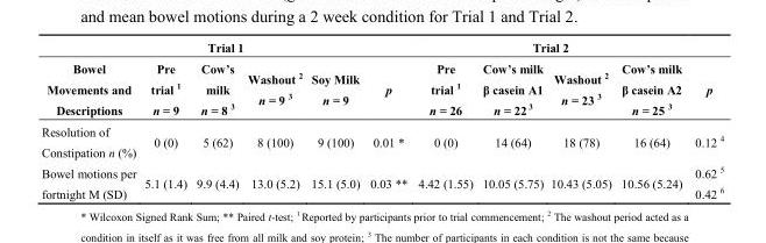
<table><thead><tr><td colspan="6">Trial 1</td><td colspan="4">Trial 2</td><td rowspan="2">p</td></tr><tr><td>Bowel Movements and Descriptions</td><td>Pre trial <sup>1</sup> n = 9</td><td>Cow’s milk n = 8 <sup>3</sup></td><td>Washout <sup>2</sup> n = 9 <sup>3</sup></td><td>Soy Milk n = 9</td><td>p</td><td>Pre trial <sup>1</sup> n = 26</td><td>Cow’s milk β casein A1 n = 22 <sup>3</sup></td><td>Washout <sup>2</sup> n = 23 <sup>3</sup></td><td>Cow’s milk β casein A2 n = 25 <sup>3</sup></td></tr></thead><tbody><tr><td>Resolution of Constipation n (%)</td><td>0 (0)</td><td>5 (62)</td><td>8 (100)</td><td>9 (100)</td><td>0.01 *</td><td>0 (0)</td><td>14 (64)</td><td>18 (78)</td><td>16 (64)</td><td>0.12 <sup>4</sup></td></tr><tr><td rowspan="2">Bowel motions per fortnight M (SD)</td><td rowspan="2">5.1 (1.4)</td><td rowspan="2">9.9 (4.4)</td><td rowspan="2">13.0 (5.2)</td><td rowspan="2">15.1 (5.0)</td><td rowspan="2">0.03 **</td><td rowspan="2">4.42 (1.55)</td><td rowspan="2">10.05 (5.75)</td><td rowspan="2">10.43 (5.05)</td><td rowspan="2">10.56 (5.24)</td><td>0.62 <sup>5</sup></td></tr><tr><td>0.42 <sup>6</sup></td></tr></tbody></table>